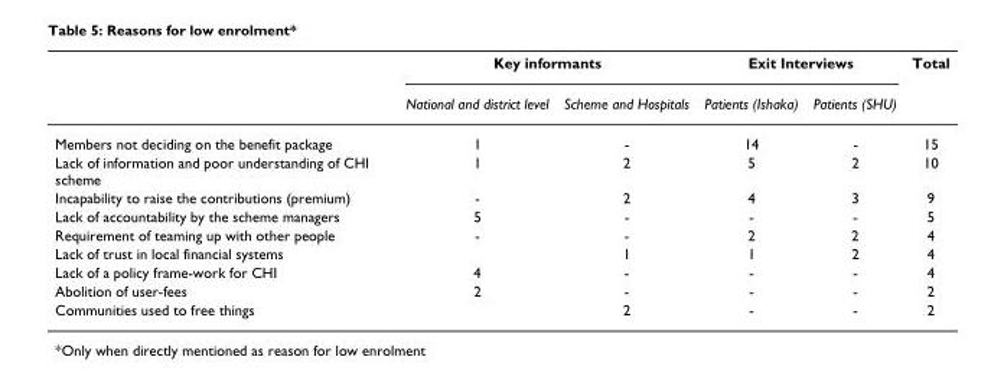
<table><thead><tr><td rowspan="2"></td><td colspan="2">Key informants</td><td colspan="2">Exit Interviews</td><td rowspan="2">Total</td></tr><tr><td>National and district level</td><td>Scheme and Hospitals</td><td>Patients (Ishaka)</td><td>Patients (SHU)</td></tr></thead><tbody><tr><td>Members not deciding on the benefit package</td><td>1</td><td>-</td><td>14</td><td>-</td><td>15</td></tr><tr><td>Lack of information and poor understanding of CHI scheme</td><td>1</td><td>2</td><td>5</td><td>2</td><td>10</td></tr><tr><td>Incapability to raise the contributions (premium)</td><td>-</td><td>2</td><td>4</td><td>3</td><td>9</td></tr><tr><td>Lack of accountability by the scheme managers</td><td>5</td><td>-</td><td>-</td><td>-</td><td>5</td></tr><tr><td>Requirement of teaming up with other people</td><td>-</td><td>-</td><td>2</td><td>2</td><td>4</td></tr><tr><td>Lack of trust in local financial systems</td><td></td><td>1</td><td>1</td><td>2</td><td>4</td></tr><tr><td>Lack of a policy frame-work for CHI</td><td>4</td><td>-</td><td>-</td><td>-</td><td>4</td></tr><tr><td>Abolition of user-fees</td><td>2</td><td>-</td><td>-</td><td>-</td><td>2</td></tr><tr><td>Communities used to free things</td><td></td><td>2</td><td>-</td><td>-</td><td>2</td></tr></tbody></table>